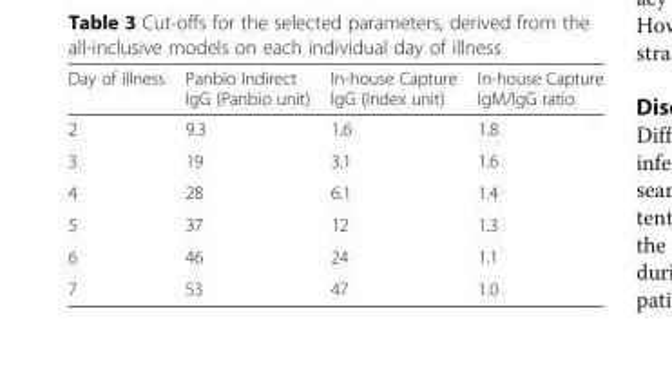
<table><thead><tr><td>Day of illness</td><td>Panbio Indirect IgG (Panbio unit)</td><td>In-house Capture IgG (Index unit)</td><td>In-house Capture IgM/IgG ratio</td></tr></thead><tbody><tr><td>2</td><td>9.3</td><td>1.6</td><td>1.8</td></tr><tr><td>3</td><td>19</td><td>3.1</td><td>1.6</td></tr><tr><td>4</td><td>28</td><td>6.1</td><td>1.4</td></tr><tr><td>5</td><td>37</td><td>12</td><td>1.3</td></tr><tr><td>6</td><td>46</td><td>24</td><td>1.1</td></tr><tr><td>7</td><td>53</td><td>47</td><td>1.0</td></tr></tbody></table>